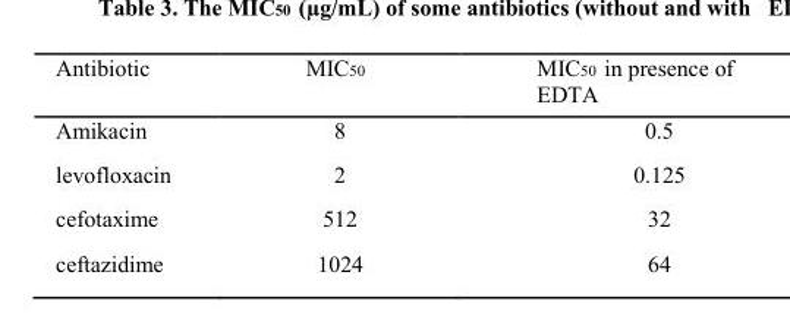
<table><thead><tr><td>Antibiotic</td><td>MIC<sub>50</sub></td><td>MIC<sub>50</sub> in presence of EDTA</td></tr></thead><tbody><tr><td>Amikacin</td><td>8</td><td>0.5</td></tr><tr><td>levofloxacin</td><td>2</td><td>0.125</td></tr><tr><td>cefotaxime</td><td>512</td><td>32</td></tr><tr><td>ceftazidime</td><td>1024</td><td>64</td></tr></tbody></table>